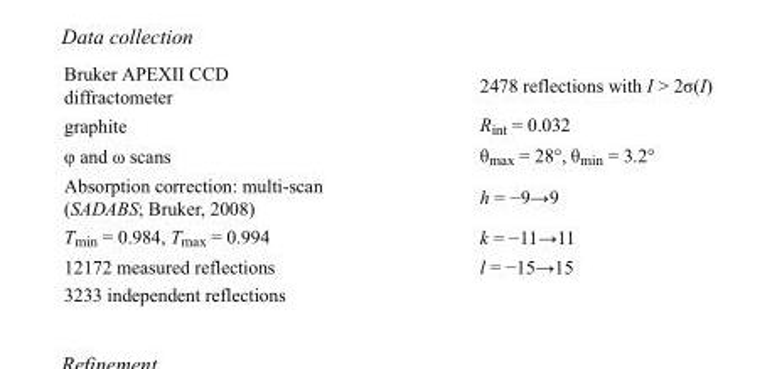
<table><tbody><tr><td>Bruker APEXII CCD diffractometer</td><td>2478 reflections with I &gt; 2σ(I)</td></tr><tr><td>graphite</td><td>R<sub>int</sub> = 0.032</td></tr><tr><td>φ and ω scans</td><td>θ<sub>max</sub> = 28°, θ<sub>min</sub> = 3.2°</td></tr><tr><td>Absorption correction: multi-scan (SADABS; Bruker, 2008)</td><td>h = −9→9</td></tr><tr><td>T<sub>min</sub> = 0.984, T<sub>max</sub> = 0.994</td><td>k = −11→11</td></tr><tr><td>12172 measured reflections</td><td>l = −15→15</td></tr><tr><td>3233 independent reflections</td><td></td></tr></tbody></table>